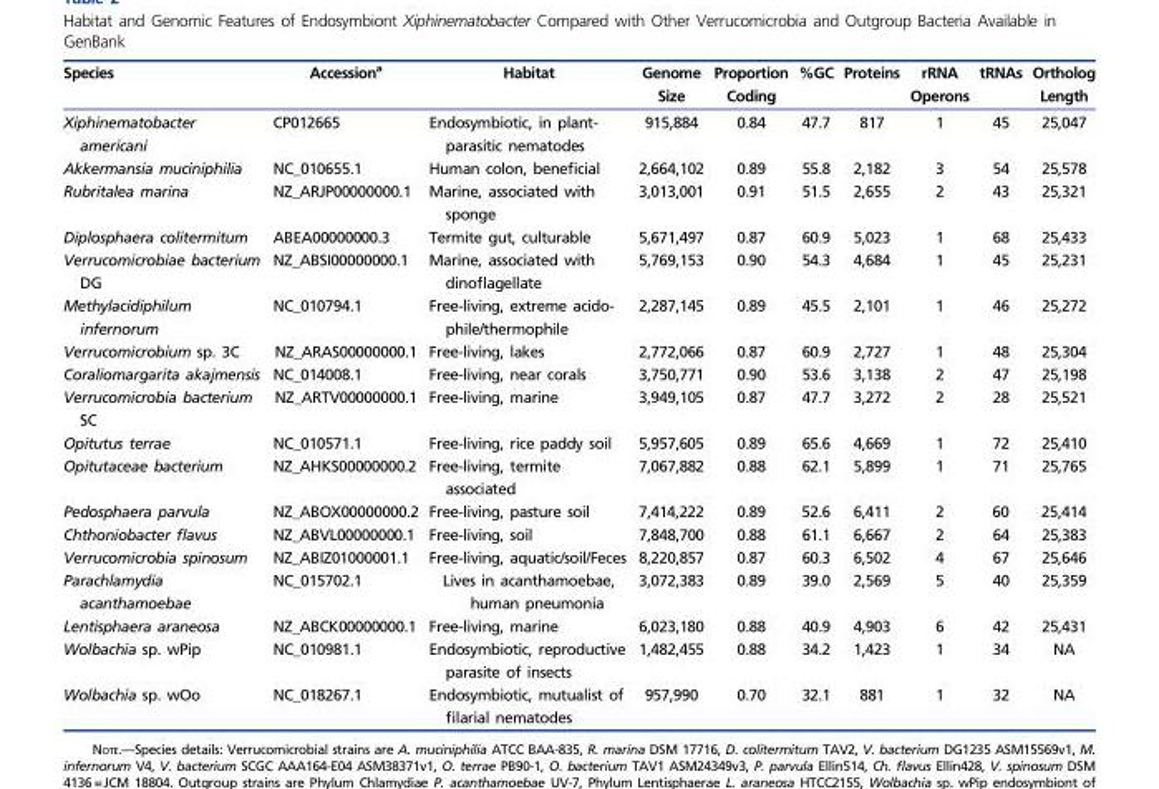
<table><thead><tr><td>Species</td><td>Accession<sup>a</sup></td><td>Habitat</td><td>Genome Size</td><td>Proportion Coding</td><td>%GC</td><td>Proteins</td><td>rRNA Operons</td><td>tRNAs</td><td>Ortholog Length</td></tr></thead><tbody><tr><td>Xiphinematobacter americani</td><td>CP012665</td><td>Endosymbiotic, in plant- parasitic nematodes</td><td>915,884</td><td>0.84</td><td>47.7</td><td>817</td><td>1</td><td>45</td><td>25,047</td></tr><tr><td>Akkermansia muciniphilia</td><td>NC_010655.1</td><td>Human colon, beneficial</td><td>2,664,102</td><td>0.89</td><td>55.8</td><td>2,182</td><td>3</td><td>54</td><td>25,578</td></tr><tr><td>Rubritalea marina</td><td>NZ_ARJP00000000.1</td><td>Marine, associated with sponge</td><td>3,013,001</td><td>0.91</td><td>51.5</td><td>2,655</td><td>2</td><td>43</td><td>25,321</td></tr><tr><td>Diplosphaera colitermitum</td><td>ABEA00000000.3</td><td>Termite gut, culturable</td><td>5,671,497</td><td>0.87</td><td>60.9</td><td>5,023</td><td>1</td><td>68</td><td>25,433</td></tr><tr><td>Verrucomicrobiae bacterium DG</td><td>NZ_ABSI00000000.1</td><td>Marine, associated with dinoflagellate</td><td>5,769,153</td><td>0.90</td><td>54.3</td><td>4,684</td><td>1</td><td>45</td><td>25,231</td></tr><tr><td>Methylacidiphilum infernorum</td><td>NC_010794.1</td><td>Free-living, extreme acido- phile/thermophile</td><td>2,287,145</td><td>0.89</td><td>45.5</td><td>2,101</td><td>1</td><td>46</td><td>25,272</td></tr><tr><td>Verrucomicrobium sp. 3C</td><td>NZ_ARAS00000000.1</td><td>Free-living, lakes</td><td>2,772,066</td><td>0.87</td><td>60.9</td><td>2,727</td><td>1</td><td>48</td><td>25,304</td></tr><tr><td>Coraliomargarita akajmensis</td><td>NC_014008.1</td><td>Free-living, near corals</td><td>3,750,771</td><td>0.90</td><td>53.6</td><td>3,138</td><td>2</td><td>47</td><td>25,198</td></tr><tr><td>Verrucomicrobia bacterium SC</td><td>NZ_ARTV00000000.1</td><td>Free-living, marine</td><td>3,949,105</td><td>0.87</td><td>47.7</td><td>3,272</td><td>2</td><td>28</td><td>25,521</td></tr><tr><td>Opitutus terrae</td><td>NC_010571.1</td><td>Free-living, rice paddy soil</td><td>5,957,605</td><td>0.89</td><td>65.6</td><td>4,669</td><td>1</td><td>72</td><td>25,410</td></tr><tr><td>Opitutaceae bacterium</td><td>NZ_AHKS00000000.2</td><td>Free-living, termite associated</td><td>7,067,882</td><td>0.88</td><td>62.1</td><td>5,899</td><td>1</td><td>71</td><td>25,765</td></tr><tr><td>Pedosphaera parvula</td><td>NZ_ABOX00000000.2</td><td>Free-living, pasture soil</td><td>7,414,222</td><td>0.89</td><td>52.6</td><td>6,411</td><td>2</td><td>60</td><td>25,414</td></tr><tr><td>Chthoniobacter flavus</td><td>NZ_ABVL00000000.1</td><td>Free-living, soil</td><td>7,848,700</td><td>0.88</td><td>61.1</td><td>6,667</td><td>2</td><td>64</td><td>25,383</td></tr><tr><td>Verrucomicrobia spinosum</td><td>NZ_ABIZ01000001.1</td><td>Free-living, aquatic/soil/Feces</td><td>8,220,857</td><td>0.87</td><td>60.3</td><td>6,502</td><td>4</td><td>67</td><td>25,646</td></tr><tr><td>Parachlamydia acanthamoebae</td><td>NC_015702.1</td><td>Lives in acanthamoebae, human pneumonia</td><td>3,072,383</td><td>0.89</td><td>39.0</td><td>2,569</td><td>5</td><td>40</td><td>25,359</td></tr><tr><td>Lentisphaera araneosa</td><td>NZ_ABCK00000000.1</td><td>Free-living, marine</td><td>6,023,180</td><td>0.88</td><td>40.9</td><td>4,903</td><td>6</td><td>42</td><td>25,431</td></tr><tr><td>Wolbachia sp. wPip</td><td>NC_010981.1</td><td>Endosymbiotic, reproductive parasite of insects</td><td>1,482,455</td><td>0.88</td><td>34.2</td><td>1,423</td><td>1</td><td>34</td><td>NA</td></tr><tr><td>Wolbachia sp. wOo</td><td>NC_018267.1</td><td>Endosymbiotic, mutualist of filarial nematodes</td><td>957,990</td><td>0.70</td><td>32.1</td><td>881</td><td>1</td><td>32</td><td>NA</td></tr></tbody></table>